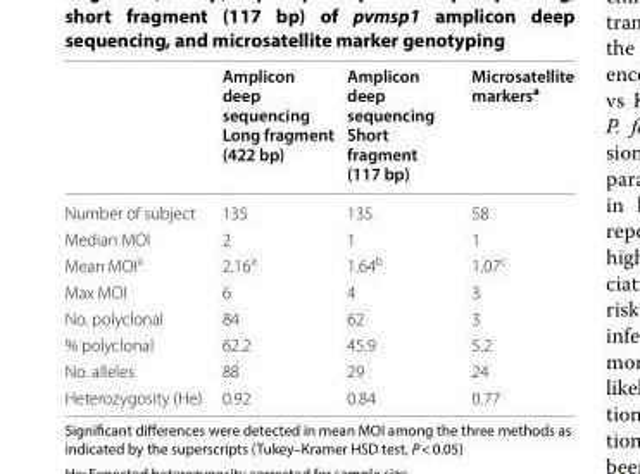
<table><thead><tr><td></td><td>Amplicon deep sequencing Long fragment (422 bp)</td><td>Amplicon deep sequencing Short fragment (117 bp)</td><td>Microsatellite markers<sup>a</sup></td></tr></thead><tbody><tr><td>Number of subject</td><td>135</td><td>135</td><td>58</td></tr><tr><td>Median MOI</td><td>2</td><td>1</td><td>1</td></tr><tr><td>Mean MOI<sup>a</sup></td><td>2.16<sup>a</sup></td><td>1.64<sup>b</sup></td><td>1.07<sup>c</sup></td></tr><tr><td>Max MOI</td><td>6</td><td>4</td><td>3</td></tr><tr><td>No. polyclonal</td><td>84</td><td>62</td><td>3</td></tr><tr><td>% polyclonal</td><td>62.2</td><td>45.9</td><td>5.2</td></tr><tr><td>No. alleles</td><td>88</td><td>29</td><td>24</td></tr><tr><td>Heterozygosity (He)</td><td>0.92</td><td>0.84</td><td>0.77</td></tr></tbody></table>